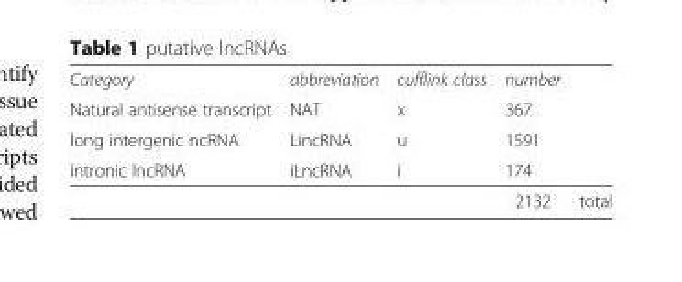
<table><thead><tr><td rowspan="4">Category Natural antisense transcript long intergenic ncRNA intronic lncRNA</td><td rowspan="4">abbreviation NAT LincRNA iLncRNA</td><td rowspan="4">cufflink class x u i</td><td rowspan="4">number 367 1591 174</td><td rowspan="4"></td></tr><tr></tr><tr></tr><tr></tr></thead><tbody><tr><td colspan="3"></td><td>2132</td><td>total</td></tr></tbody></table>